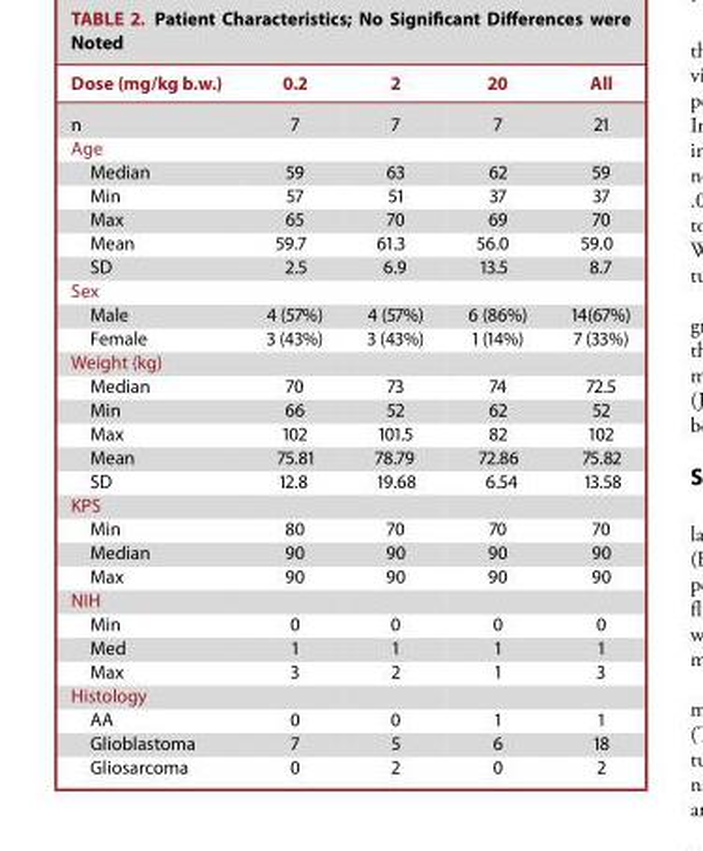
<table><thead><tr><td>Dose (mg/kg b.w.)</td><td>0.2</td><td>2</td><td>20</td><td>All</td></tr></thead><tbody><tr><td>n</td><td>7</td><td>7</td><td>7</td><td>21</td></tr><tr><td colspan="5">Age</td></tr><tr><td>Median</td><td>59</td><td>63</td><td>62</td><td>59</td></tr><tr><td>Min</td><td>57</td><td>51</td><td>37</td><td>37</td></tr><tr><td>Max</td><td>65</td><td>70</td><td>69</td><td>70</td></tr><tr><td>Mean</td><td>59.7</td><td>61.3</td><td>56.0</td><td>59.0</td></tr><tr><td>SD</td><td>2.5</td><td>6.9</td><td>13.5</td><td>8.7</td></tr><tr><td colspan="5">Sex</td></tr><tr><td>Male</td><td>4 (57%)</td><td>4 (57%)</td><td>6 (86%)</td><td>14(67%)</td></tr><tr><td>Female</td><td>3 (43%)</td><td>3 (43%)</td><td>1 (14%)</td><td>7 (33%)</td></tr><tr><td colspan="5">Weight (kg)</td></tr><tr><td>Median</td><td>70</td><td>73</td><td>74</td><td>72.5</td></tr><tr><td>Min</td><td>66</td><td>52</td><td>62</td><td>52</td></tr><tr><td>Max</td><td>102</td><td>101.5</td><td>82</td><td>102</td></tr><tr><td>Mean</td><td>75.81</td><td>78.79</td><td>72.86</td><td>75.82</td></tr><tr><td>SD</td><td>12.8</td><td>19.68</td><td>6.54</td><td>13.58</td></tr><tr><td colspan="5">KPS</td></tr><tr><td>Min</td><td>80</td><td>70</td><td>70</td><td>70</td></tr><tr><td>Median</td><td>90</td><td>90</td><td>90</td><td>90</td></tr><tr><td>Max</td><td>90</td><td>90</td><td>90</td><td>90</td></tr><tr><td colspan="5">NIH</td></tr><tr><td>Min</td><td>0</td><td>0</td><td>0</td><td>0</td></tr><tr><td>Med</td><td>1</td><td>1</td><td>1</td><td>1</td></tr><tr><td>Max</td><td>3</td><td>2</td><td>1</td><td>3</td></tr><tr><td colspan="5">Histology</td></tr><tr><td>AA</td><td>0</td><td>0</td><td>1</td><td>1</td></tr><tr><td>Glioblastoma</td><td>7</td><td>5</td><td>6</td><td>18</td></tr><tr><td>Gliosarcoma</td><td>0</td><td>2</td><td>0</td><td>2</td></tr></tbody></table>